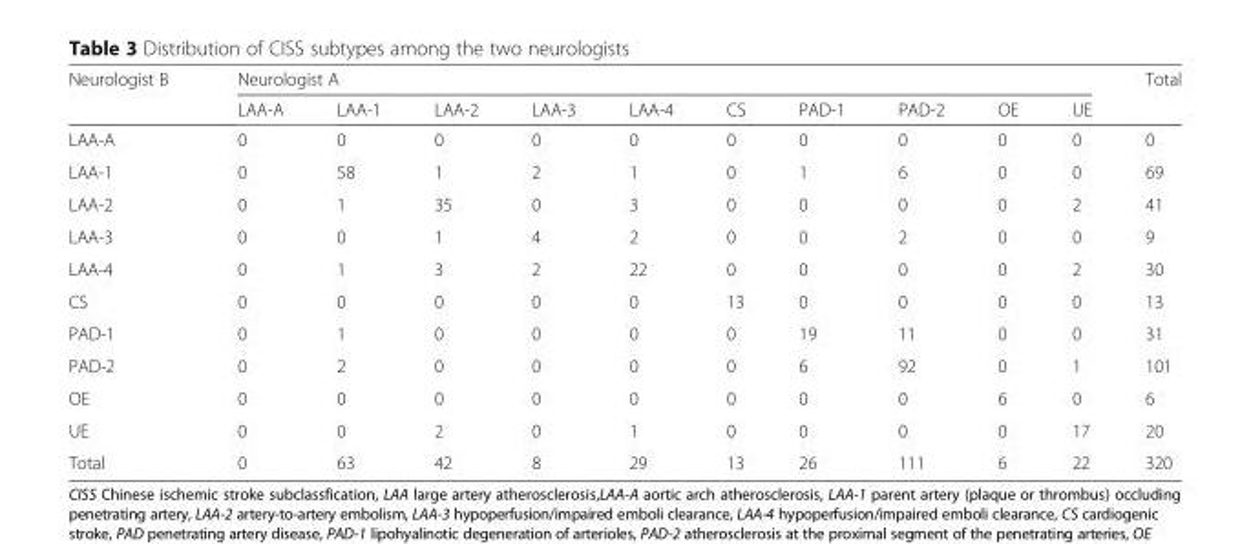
<table><thead><tr><td rowspan="2">Neurologist B</td><td colspan="10">Neurologist A</td><td rowspan="2">Total</td></tr><tr><td>LAA-A</td><td>LAA-1</td><td>LAA-2</td><td>LAA-3</td><td>LAA-4</td><td>CS</td><td>PAD-1</td><td>PAD-2</td><td>OE</td><td>UE</td></tr></thead><tbody><tr><td>LAA-A</td><td>0</td><td>0</td><td>0</td><td>0</td><td>0</td><td>0</td><td>0</td><td>0</td><td>0</td><td>0</td><td>0</td></tr><tr><td>LAA-1</td><td>0</td><td>58</td><td>1</td><td>2</td><td>1</td><td>0</td><td>1</td><td>6</td><td>0</td><td>0</td><td>69</td></tr><tr><td>LAA-2</td><td>0</td><td>1</td><td>35</td><td>0</td><td>3</td><td>0</td><td>0</td><td>0</td><td>0</td><td>2</td><td>41</td></tr><tr><td>LAA-3</td><td>0</td><td>0</td><td>1</td><td>4</td><td>2</td><td>0</td><td>0</td><td>2</td><td>0</td><td>0</td><td>9</td></tr><tr><td>LAA-4</td><td>0</td><td>1</td><td>3</td><td>2</td><td>22</td><td>0</td><td>0</td><td>0</td><td>0</td><td>2</td><td>30</td></tr><tr><td>CS</td><td>0</td><td>0</td><td>0</td><td>0</td><td>0</td><td>13</td><td>0</td><td>0</td><td>0</td><td>0</td><td>13</td></tr><tr><td>PAD-1</td><td>0</td><td>1</td><td>0</td><td>0</td><td>0</td><td>0</td><td>19</td><td>11</td><td>0</td><td>0</td><td>31</td></tr><tr><td>PAD-2</td><td>0</td><td>2</td><td>0</td><td>0</td><td>0</td><td>0</td><td>6</td><td>92</td><td>0</td><td>1</td><td>101</td></tr><tr><td>OE</td><td>0</td><td>0</td><td>0</td><td>0</td><td>0</td><td>0</td><td>0</td><td>0</td><td>6</td><td>0</td><td>6</td></tr><tr><td>UE</td><td>0</td><td>0</td><td>2</td><td>0</td><td>1</td><td>0</td><td>0</td><td>0</td><td>0</td><td>17</td><td>20</td></tr><tr><td>Total</td><td>0</td><td>63</td><td>42</td><td>8</td><td>29</td><td>13</td><td>26</td><td>111</td><td>6</td><td>22</td><td>320</td></tr></tbody></table>